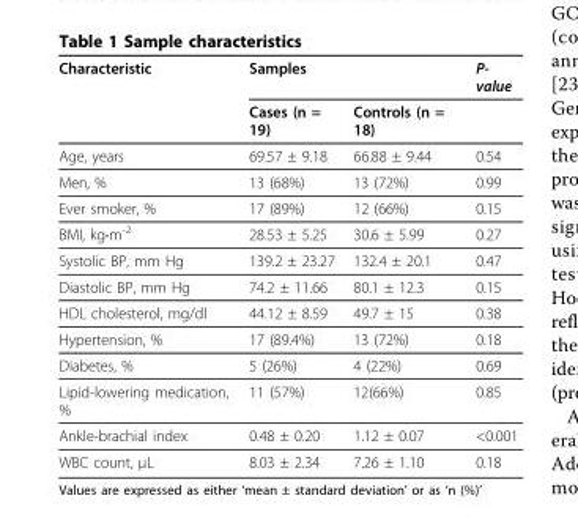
<table><thead><tr><td rowspan="2">Characteristic</td><td colspan="2">Samples</td><td rowspan="2">P- value</td></tr><tr><td>Cases (n = 19)</td><td>Controls (n = 18)</td></tr></thead><tbody><tr><td>Age, years</td><td>69.57 ± 9.18</td><td>66.88 ± 9.44</td><td>0.54</td></tr><tr><td>Men, %</td><td>13 (68%)</td><td>13 (72%)</td><td>0.99</td></tr><tr><td>Ever smoker, %</td><td>17 (89%)</td><td>12 (66%)</td><td>0.15</td></tr><tr><td>BMI, kg⋅m<sup>-2</sup></td><td>28.53 ± 5.25</td><td>30.6 ± 5.99</td><td>0.27</td></tr><tr><td>Systolic BP, mm Hg</td><td>139.2 ± 23.27</td><td>132.4 ± 20.1</td><td>0.47</td></tr><tr><td>Diastolic BP, mm Hg</td><td>74.2 ± 11.66</td><td>80.1 ± 12.3</td><td>0.15</td></tr><tr><td>HDL cholesterol, mg/dl</td><td>44.12 ± 8.59</td><td>49.7 ± 15</td><td>0.38</td></tr><tr><td>Hypertension, %</td><td>17 (89.4%)</td><td>13 (72%)</td><td>0.18</td></tr><tr><td>Diabetes, %</td><td>5 (26%)</td><td>4 (22%)</td><td>0.69</td></tr><tr><td>Lipid-lowering medication, %</td><td>11 (57%)</td><td>12(66%)</td><td>0.85</td></tr><tr><td>Ankle-brachial index</td><td>0.48 ± 0.20</td><td>1.12 ± 0.07</td><td>&lt;0.001</td></tr><tr><td>WBC count, μL</td><td>8.03 ± 2.34</td><td>7.26 ± 1.10</td><td>0.18</td></tr></tbody></table>